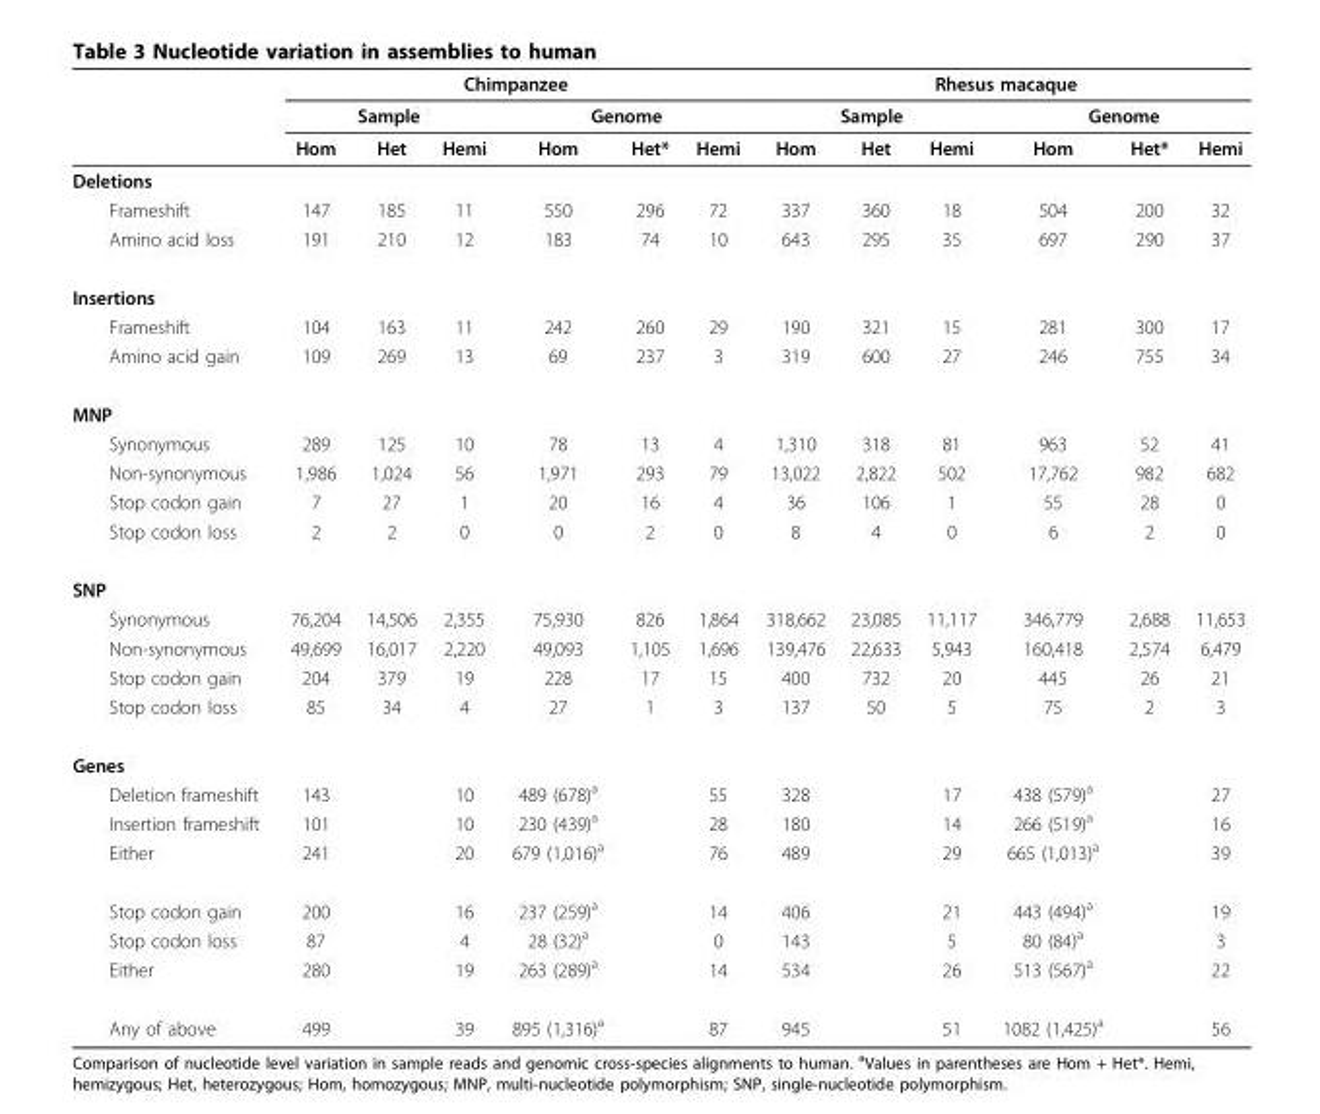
<table><thead><tr><td rowspan="3"></td><td colspan="6">Chimpanzee</td><td colspan="6">Rhesus macaque</td></tr><tr><td colspan="3">Sample</td><td colspan="3">Genome</td><td colspan="3">Sample</td><td colspan="3">Genome</td></tr><tr><td>Hom</td><td>Het</td><td>Hemi</td><td>Hom</td><td>Het*</td><td>Hemi</td><td>Hom</td><td>Het</td><td>Hemi</td><td>Hom</td><td>Het*</td><td>Hemi</td></tr></thead><tbody><tr><td colspan="13">Deletions</td></tr><tr><td>Frameshift</td><td>147</td><td>185</td><td>11</td><td>550</td><td>296</td><td>72</td><td>337</td><td>360</td><td>18</td><td>504</td><td>200</td><td>32</td></tr><tr><td>Amino acid loss</td><td>191</td><td>210</td><td>12</td><td>183</td><td>74</td><td>10</td><td>643</td><td>295</td><td>35</td><td>697</td><td>290</td><td>37</td></tr><tr><td colspan="13">Insertions</td></tr><tr><td>Frameshift</td><td>104</td><td>163</td><td>11</td><td>242</td><td>260</td><td>29</td><td>190</td><td>321</td><td>15</td><td>281</td><td>300</td><td>17</td></tr><tr><td>Amino acid gain</td><td>109</td><td>269</td><td>13</td><td>69</td><td>237</td><td>3</td><td>319</td><td>600</td><td>27</td><td>246</td><td>755</td><td>34</td></tr><tr><td colspan="13">MNP</td></tr><tr><td>Synonymous</td><td>289</td><td>125</td><td>10</td><td>78</td><td>13</td><td>4</td><td>1,310</td><td>318</td><td>81</td><td>963</td><td>52</td><td>41</td></tr><tr><td>Non-synonymous</td><td>1,986</td><td>1,024</td><td>56</td><td>1,971</td><td>293</td><td>79</td><td>13,022</td><td>2,822</td><td>502</td><td>17,762</td><td>982</td><td>682</td></tr><tr><td>Stop codon gain</td><td>7</td><td>27</td><td>1</td><td>20</td><td>16</td><td>4</td><td>36</td><td>106</td><td>1</td><td>55</td><td>28</td><td>0</td></tr><tr><td>Stop codon loss</td><td>2</td><td>2</td><td>0</td><td>0</td><td>2</td><td>0</td><td>8</td><td>4</td><td>0</td><td>6</td><td>2</td><td>0</td></tr><tr><td colspan="13">SNP</td></tr><tr><td>Synonymous</td><td>76,204</td><td>14,506</td><td>2,355</td><td>75,930</td><td>826</td><td>1,864</td><td>318,662</td><td>23,085</td><td>11,117</td><td>346,779</td><td>2,688</td><td>11,653</td></tr><tr><td>Non-synonymous</td><td>49,699</td><td>16,017</td><td>2,220</td><td>49,093</td><td>1,105</td><td>1,696</td><td>139,476</td><td>22,633</td><td>5,943</td><td>160,418</td><td>2,574</td><td>6,479</td></tr><tr><td>Stop codon gain</td><td>204</td><td>379</td><td>19</td><td>228</td><td>17</td><td>15</td><td>400</td><td>732</td><td>20</td><td>445</td><td>26</td><td>21</td></tr><tr><td>Stop codon loss</td><td>85</td><td>34</td><td>4</td><td>27</td><td>1</td><td>3</td><td>137</td><td>50</td><td>5</td><td>75</td><td>2</td><td>3</td></tr><tr><td colspan="13">Genes</td></tr><tr><td>Deletion frameshift</td><td>143</td><td></td><td>10</td><td>489 (678)<sup>a</sup></td><td></td><td>55</td><td>328</td><td></td><td>17</td><td>438 (579)<sup>a</sup></td><td></td><td>27</td></tr><tr><td>Insertion frameshift</td><td>101</td><td></td><td>10</td><td>230 (439)<sup>a</sup></td><td></td><td>28</td><td>180</td><td></td><td>14</td><td>266 (519)<sup>a</sup></td><td></td><td>16</td></tr><tr><td>Either</td><td>241</td><td></td><td>20</td><td>679 (1,016)<sup>a</sup></td><td></td><td>76</td><td>489</td><td></td><td>29</td><td>665 (1,013)<sup>a</sup></td><td></td><td>39</td></tr><tr><td>Stop codon gain</td><td>200</td><td></td><td>16</td><td>237 (259)<sup>a</sup></td><td></td><td>14</td><td>406</td><td></td><td>21</td><td>443 (494)<sup>a</sup></td><td></td><td>19</td></tr><tr><td>Stop codon loss</td><td>87</td><td></td><td>4</td><td>28 (32)<sup>a</sup></td><td></td><td>0</td><td>143</td><td></td><td>5</td><td>80 (84)<sup>a</sup></td><td></td><td>3</td></tr><tr><td>Either</td><td>280</td><td></td><td>19</td><td>263 (289)<sup>a</sup></td><td></td><td>14</td><td>534</td><td></td><td>26</td><td>513 (567)<sup>a</sup></td><td></td><td>22</td></tr><tr><td>Any of above</td><td>499</td><td></td><td>39</td><td>895 (1,316)<sup>a</sup></td><td></td><td>87</td><td>945</td><td></td><td>51</td><td>1082 (1,425)<sup>a</sup></td><td></td><td>56</td></tr></tbody></table>